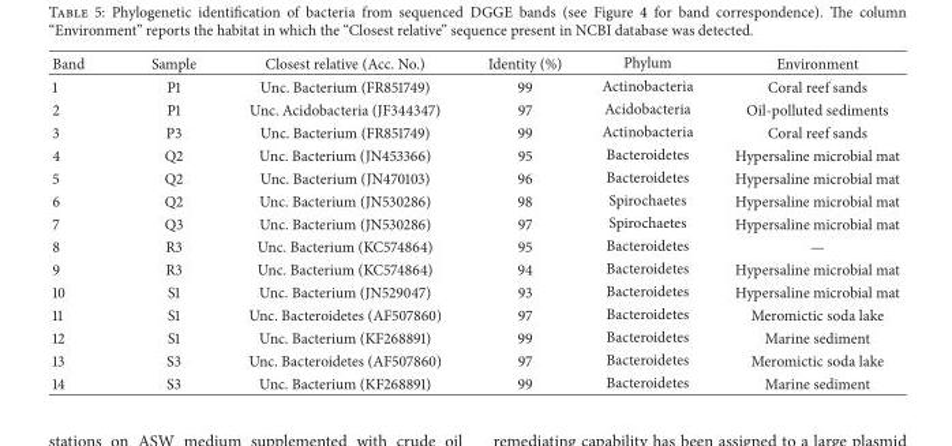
<table><thead><tr><td>Band</td><td>Sample</td><td>Closest relative (Acc. No.)</td><td>Identity (%)</td><td>Phylum</td><td>Environment</td></tr></thead><tbody><tr><td>1</td><td>P1</td><td>Unc. Bacterium (FR851749)</td><td>99</td><td>Actinobacteria</td><td>Coral reef sands</td></tr><tr><td>2</td><td>P1</td><td>Unc. Acidobacteria (JF344347)</td><td>97</td><td>Acidobacteria</td><td>Oil-polluted sediments</td></tr><tr><td>3</td><td>P3</td><td>Unc. Bacterium (FR851749)</td><td>99</td><td>Actinobacteria</td><td>Coral reef sands</td></tr><tr><td>4</td><td>Q2</td><td>Unc. Bacterium (JN453366)</td><td>95</td><td>Bacteroidetes</td><td>Hypersaline microbial mat</td></tr><tr><td>5</td><td>Q2</td><td>Unc. Bacterium (JN470103)</td><td>96</td><td>Bacteroidetes</td><td>Hypersaline microbial mat</td></tr><tr><td>6</td><td>Q2</td><td>Unc. Bacterium (JN530286)</td><td>98</td><td>Spirochaetes</td><td>Hypersaline microbial mat</td></tr><tr><td>7</td><td>Q3</td><td>Unc. Bacterium (JN530286)</td><td>97</td><td>Spirochaetes</td><td>Hypersaline microbial mat</td></tr><tr><td>8</td><td>R3</td><td>Unc. Bacterium (KC574864)</td><td>95</td><td>Bacteroidetes</td><td>—</td></tr><tr><td>9</td><td>R3</td><td>Unc. Bacterium (KC574864)</td><td>94</td><td>Bacteroidetes</td><td>Hypersaline microbial mat</td></tr><tr><td>10</td><td>S1</td><td>Unc. Bacterium (JN529047)</td><td>93</td><td>Bacteroidetes</td><td>Hypersaline microbial mat</td></tr><tr><td>11</td><td>S1</td><td>Unc. Bacteroidetes (AF507860)</td><td>97</td><td>Bacteroidetes</td><td>Meromictic soda lake</td></tr><tr><td>12</td><td>S1</td><td>Unc. Bacterium (KF268891)</td><td>99</td><td>Bacteroidetes</td><td>Marine sediment</td></tr><tr><td>13</td><td>S3</td><td>Unc. Bacteroidetes (AF507860)</td><td>97</td><td>Bacteroidetes</td><td>Meromictic soda lake</td></tr><tr><td>14</td><td>S3</td><td>Unc. Bacterium (KF268891)</td><td>99</td><td>Bacteroidetes</td><td>Marine sediment</td></tr></tbody></table>